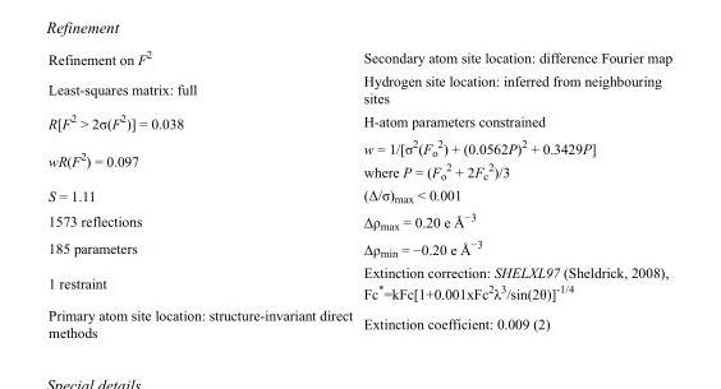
<table><tbody><tr><td>Refinement on F<sup>2</sup></td><td>Secondary atom site location: difference Fourier map</td></tr><tr><td>Least-squares matrix: full</td><td>Hydrogen site location: inferred from neighbouring sites</td></tr><tr><td>R[F<sup>2</sup> &gt; 2σ(F<sup>2</sup>)] = 0.038</td><td>H-atom parameters constrained</td></tr><tr><td>wR(F<sup>2</sup>) = 0.097</td><td>w = 1/[σ<sup>2</sup>(F<sub>o</sub> <sup>2</sup>) + (0.0562P)<sup>2</sup> + 0.3429P] where P = (F<sub>o</sub> <sup>2</sup> + 2F<sub>c</sub> <sup>2</sup>)/3</td></tr><tr><td>S = 1.11</td><td>(Δ/σ)<sub>max</sub> &lt; 0.001</td></tr><tr><td>1573 reflections</td><td>Δρ<sub>max</sub> = 0.20 e Å<sup>−3</sup></td></tr><tr><td>185 parameters</td><td>Δρ<sub>min</sub> = −0.20 e Å<sup>−3</sup></td></tr><tr><td>1 restraint</td><td>Extinction correction: SHELXL97 (Sheldrick, 2008), Fc*=kFc[1+0.001xFc<sup>2</sup>λ<sup>3</sup>/sin(2θ)]<sup>-1/4</sup></td></tr><tr><td>Primary atom site location: structure-invariant direct methods</td><td>Extinction coefficient: 0.009 (2)</td></tr></tbody></table>